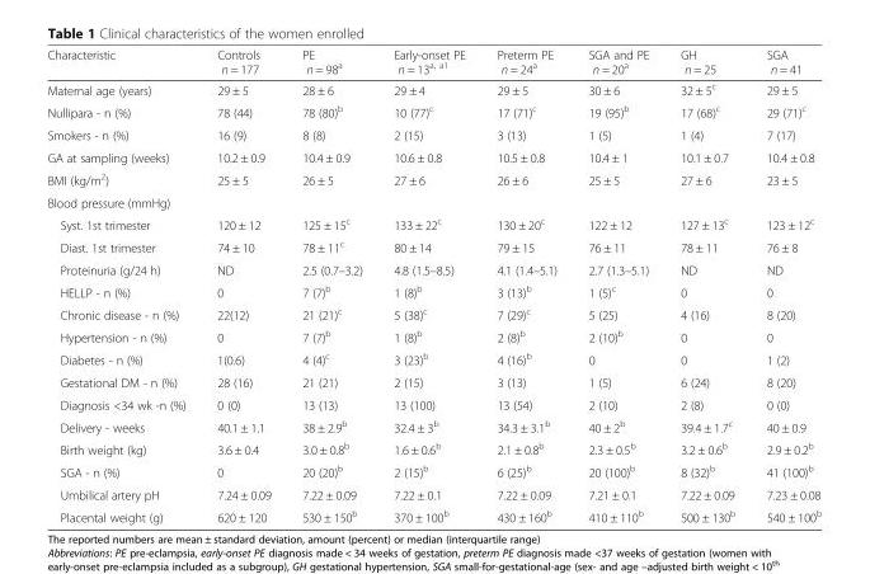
<table><thead><tr><td>Characteristic</td><td>Controls n = 177</td><td>PE n = 98<sup>a</sup></td><td>Early-onset PE n = 13<sup>a, a1</sup></td><td>Preterm PE n = 24<sup>a</sup></td><td>SGA and PE n = 20<sup>a</sup></td><td>GH n = 25</td><td>SGA n = 41</td></tr></thead><tbody><tr><td>Maternal age (years)</td><td>29 ± 5</td><td>28 ± 6</td><td>29 ± 4</td><td>29 ± 5</td><td>30 ± 6</td><td>32 ± 5<sup>c</sup></td><td>29 ± 5</td></tr><tr><td>Nullipara - n (%)</td><td>78 (44)</td><td>78 (80)<sup>b</sup></td><td>10 (77)<sup>c</sup></td><td>17 (71)<sup>c</sup></td><td>19 (95)<sup>b</sup></td><td>17 (68)<sup>c</sup></td><td>29 (71)<sup>c</sup></td></tr><tr><td>Smokers - n (%)</td><td>16 (9)</td><td>8 (8)</td><td>2 (15)</td><td>3 (13)</td><td>1 (5)</td><td>1 (4)</td><td>7 (17)</td></tr><tr><td>GA at sampling (weeks)</td><td>10.2 ± 0.9</td><td>10.4 ± 0.9</td><td>10.6 ± 0.8</td><td>10.5 ± 0.8</td><td>10.4 ± 1</td><td>10.1 ± 0.7</td><td>10.4 ± 0.8</td></tr><tr><td>BMI (kg/m<sup>2</sup>)</td><td>25 ± 5</td><td>26 ± 5</td><td>27 ± 6</td><td>26 ± 6</td><td>25 ± 5</td><td>27 ± 6</td><td>23 ± 5</td></tr><tr><td colspan="8">Blood pressure (mmHg)</td></tr><tr><td>Syst. 1st trimester</td><td>120 ± 12</td><td>125 ± 15<sup>c</sup></td><td>133 ± 22<sup>c</sup></td><td>130 ± 20<sup>c</sup></td><td>122 ± 12</td><td>127 ± 13<sup>c</sup></td><td>123 ± 12<sup>c</sup></td></tr><tr><td>Diast. 1st trimester</td><td>74 ± 10</td><td>78 ± 11<sup>c</sup></td><td>80 ± 14</td><td>79 ± 15</td><td>76 ± 11</td><td>78 ± 11</td><td>76 ± 8</td></tr><tr><td>Proteinuria (g/24 h)</td><td>ND</td><td>2.5 (0.7–3.2)</td><td>4.8 (1.5–8.5)</td><td>4.1 (1.4–5.1)</td><td>2.7 (1.3–5.1)</td><td>ND</td><td>ND</td></tr><tr><td>HELLP - n (%)</td><td>0</td><td>7 (7)<sup>b</sup></td><td>1 (8)<sup>b</sup></td><td>3 (13)<sup>b</sup></td><td>1 (5)<sup>c</sup></td><td>0</td><td>0</td></tr><tr><td>Chronic disease - n (%)</td><td>22(12)</td><td>21 (21)<sup>c</sup></td><td>5 (38)<sup>c</sup></td><td>7 (29)<sup>c</sup></td><td>5 (25)</td><td>4 (16)</td><td>8 (20)</td></tr><tr><td>Hypertension - n (%)</td><td>0</td><td>7 (7)<sup>b</sup></td><td>1 (8)<sup>b</sup></td><td>2 (8)<sup>b</sup></td><td>2 (10)<sup>b</sup></td><td>0</td><td>0</td></tr><tr><td>Diabetes - n (%)</td><td>1(0.6)</td><td>4 (4)<sup>c</sup></td><td>3 (23)<sup>b</sup></td><td>4 (16)<sup>b</sup></td><td>0</td><td>0</td><td>1 (2)</td></tr><tr><td>Gestational DM - n (%)</td><td>28 (16)</td><td>21 (21)</td><td>2 (15)</td><td>3 (13)</td><td>1 (5)</td><td>6 (24)</td><td>8 (20)</td></tr><tr><td>Diagnosis &lt;34 wk -n (%)</td><td>0 (0)</td><td>13 (13)</td><td>13 (100)</td><td>13 (54)</td><td>2 (10)</td><td>2 (8)</td><td>0 (0)</td></tr><tr><td>Delivery - weeks</td><td>40.1 ± 1.1</td><td>38 ± 2.9<sup>b</sup></td><td>32.4 ± 3<sup>b</sup></td><td>34.3 ± 3.1<sup>b</sup></td><td>40 ± 2<sup>b</sup></td><td>39.4 ± 1.7<sup>c</sup></td><td>40 ± 0.9</td></tr><tr><td>Birth weight (kg)</td><td>3.6 ± 0.4</td><td>3.0 ± 0.8<sup>b</sup></td><td>1.6 ± 0.6<sup>b</sup></td><td>2.1 ± 0.8<sup>b</sup></td><td>2.3 ± 0.5<sup>b</sup></td><td>3.2 ± 0.6<sup>b</sup></td><td>2.9 ± 0.2<sup>b</sup></td></tr><tr><td>SGA - n (%)</td><td>0</td><td>20 (20)<sup>b</sup></td><td>2 (15)<sup>b</sup></td><td>6 (25)<sup>b</sup></td><td>20 (100)<sup>b</sup></td><td>8 (32)<sup>b</sup></td><td>41 (100)<sup>b</sup></td></tr><tr><td>Umbilical artery pH</td><td>7.24 ± 0.09</td><td>7.22 ± 0.09</td><td>7.22 ± 0.1</td><td>7.22 ± 0.09</td><td>7.21 ± 0.1</td><td>7.22 ± 0.09</td><td>7.23 ± 0.08</td></tr><tr><td>Placental weight (g)</td><td>620 ± 120</td><td>530 ± 150<sup>b</sup></td><td>370 ± 100<sup>b</sup></td><td>430 ± 160<sup>b</sup></td><td>410 ± 110<sup>b</sup></td><td>500 ± 130<sup>b</sup></td><td>540 ± 100<sup>b</sup></td></tr></tbody></table>